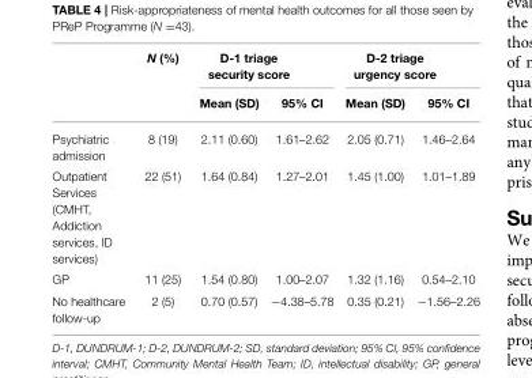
<table><thead><tr><td rowspan="2"></td><td rowspan="2">N (%)</td><td colspan="2">D-1 triage security score</td><td colspan="2">D-2 triage urgency score</td></tr><tr><td>Mean (SD)</td><td>95% CI</td><td>Mean (SD)</td><td>95% CI</td></tr></thead><tbody><tr><td>Psychiatric admission</td><td>8 (19)</td><td>2.11 (0.60)</td><td>1.61–2.62</td><td>2.05 (0.71)</td><td>1.46–2.64</td></tr><tr><td>Outpatient Services (CMHT, Addiction services, ID services)</td><td>22 (51)</td><td>1.64 (0.84)</td><td>1.27–2.01</td><td>1.45 (1.00)</td><td>1.01–1.89</td></tr><tr><td>GP</td><td>11 (25)</td><td>1.54 (0.80)</td><td>1.00–2.07</td><td>1.32 (1.16)</td><td>0.54–2.10</td></tr><tr><td>No healthcare follow-up</td><td>2 (5)</td><td>0.70 (0.57)</td><td>−4.38–5.78</td><td>0.35 (0.21)</td><td>−1.56–2.26</td></tr></tbody></table>